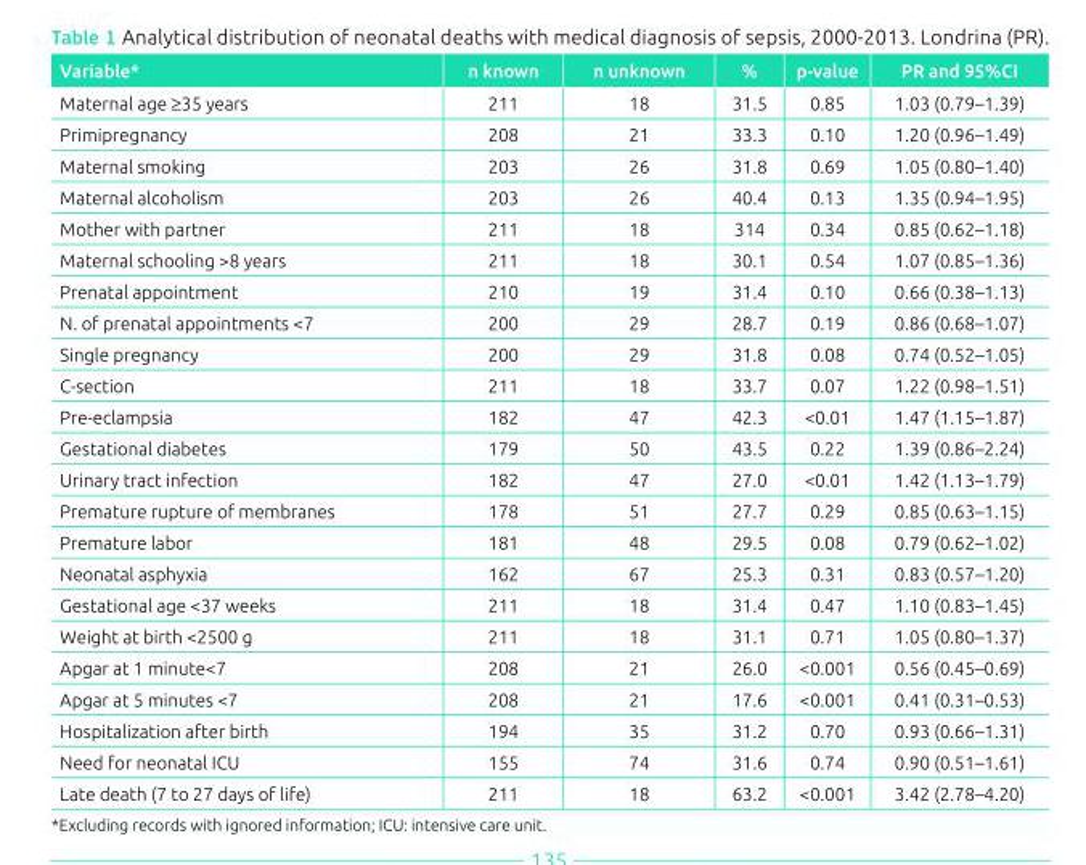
<table><thead><tr><td>Variable*</td><td>n known</td><td>n unknown</td><td>%</td><td>p-value</td><td>PR and 95%CI</td></tr></thead><tbody><tr><td>Maternal age ≥35 years</td><td>211</td><td>18</td><td>31.5</td><td>0.85</td><td>1.03 (0.79–1.39)</td></tr><tr><td>Primipregnancy</td><td>208</td><td>21</td><td>33.3</td><td>0.10</td><td>1.20 (0.96–1.49)</td></tr><tr><td>Maternal smoking</td><td>203</td><td>26</td><td>31.8</td><td>0.69</td><td>1.05 (0.80–1.40)</td></tr><tr><td>Maternal alcoholism</td><td>203</td><td>26</td><td>40.4</td><td>0.13</td><td>1.35 (0.94–1.95)</td></tr><tr><td>Mother with partner</td><td>211</td><td>18</td><td>314</td><td>0.34</td><td>0.85 (0.62–1.18)</td></tr><tr><td>Maternal schooling &gt;8 years</td><td>211</td><td>18</td><td>30.1</td><td>0.54</td><td>1.07 (0.85–1.36)</td></tr><tr><td>Prenatal appointment</td><td>210</td><td>19</td><td>31.4</td><td>0.10</td><td>0.66 (0.38–1.13)</td></tr><tr><td>N. of prenatal appointments &lt;7</td><td>200</td><td>29</td><td>28.7</td><td>0.19</td><td>0.86 (0.68–1.07)</td></tr><tr><td>Single pregnancy</td><td>200</td><td>29</td><td>31.8</td><td>0.08</td><td>0.74 (0.52–1.05)</td></tr><tr><td>C-section</td><td>211</td><td>18</td><td>33.7</td><td>0.07</td><td>1.22 (0.98–1.51)</td></tr><tr><td>Pre-eclampsia</td><td>182</td><td>47</td><td>42.3</td><td>&lt;0.01</td><td>1.47 (1.15–1.87)</td></tr><tr><td>Gestational diabetes</td><td>179</td><td>50</td><td>43.5</td><td>0.22</td><td>1.39 (0.86–2.24)</td></tr><tr><td>Urinary tract infection</td><td>182</td><td>47</td><td>27.0</td><td>&lt;0.01</td><td>1.42 (1.13–1.79)</td></tr><tr><td>Premature rupture of membranes</td><td>178</td><td>51</td><td>27.7</td><td>0.29</td><td>0.85 (0.63–1.15)</td></tr><tr><td>Premature labor</td><td>181</td><td>48</td><td>29.5</td><td>0.08</td><td>0.79 (0.62–1.02)</td></tr><tr><td>Neonatal asphyxia</td><td>162</td><td>67</td><td>25.3</td><td>0.31</td><td>0.83 (0.57–1.20)</td></tr><tr><td>Gestational age &lt;37 weeks</td><td>211</td><td>18</td><td>31.4</td><td>0.47</td><td>1.10 (0.83–1.45)</td></tr><tr><td>Weight at birth &lt;2500 g</td><td>211</td><td>18</td><td>31.1</td><td>0.71</td><td>1.05 (0.80–1.37)</td></tr><tr><td>Apgar at 1 minute&lt;7</td><td>208</td><td>21</td><td>26.0</td><td>&lt;0.001</td><td>0.56 (0.45–0.69)</td></tr><tr><td>Apgar at 5 minutes &lt;7</td><td>208</td><td>21</td><td>17.6</td><td>&lt;0.001</td><td>0.41 (0.31–0.53)</td></tr><tr><td>Hospitalization after birth</td><td>194</td><td>35</td><td>31.2</td><td>0.70</td><td>0.93 (0.66–1.31)</td></tr><tr><td>Need for neonatal ICU</td><td>155</td><td>74</td><td>31.6</td><td>0.74</td><td>0.90 (0.51–1.61)</td></tr><tr><td>Late death (7 to 27 days of life)</td><td>211</td><td>18</td><td>63.2</td><td>&lt;0.001</td><td>3.42 (2.78–4.20)</td></tr></tbody></table>